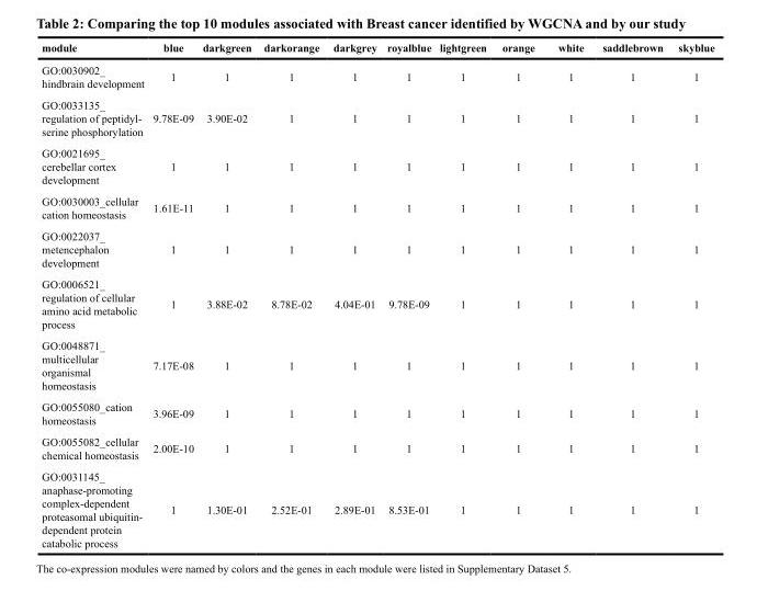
<table><thead><tr><td>module</td><td>blue</td><td>darkgreen</td><td>darkorange</td><td>darkgrey</td><td>royalblue</td><td>lightgreen</td><td>orange</td><td>white</td><td>saddlebrown</td><td>skyblue</td></tr></thead><tbody><tr><td>GO:0030902_ hindbrain development</td><td>1</td><td>1</td><td>1</td><td>1</td><td>1</td><td>1</td><td>1</td><td>1</td><td>1</td><td>1</td></tr><tr><td>GO:0033135_ regulation of peptidyl- serine phosphorylation</td><td>9.78E-09</td><td>3.90E-02</td><td>1</td><td>1</td><td>1</td><td>1</td><td>1</td><td>1</td><td>1</td><td>1</td></tr><tr><td>GO:0021695_ cerebellar cortex development</td><td>1</td><td>1</td><td>1</td><td>1</td><td>1</td><td>1</td><td>1</td><td>1</td><td>1</td><td>1</td></tr><tr><td>GO:0030003_cellular cation homeostasis</td><td>1.61E-11</td><td>1</td><td>1</td><td>1</td><td>1</td><td>1</td><td>1</td><td>1</td><td>1</td><td>1</td></tr><tr><td>GO:0022037_ metencephalon development</td><td>1</td><td>1</td><td>1</td><td>1</td><td>1</td><td>1</td><td>1</td><td>1</td><td>1</td><td>1</td></tr><tr><td>GO:0006521_ regulation of cellular amino acid metabolic process</td><td>1</td><td>3.88E-02</td><td>8.78E-02</td><td>4.04E-01</td><td>9.78E-09</td><td>1</td><td>1</td><td>1</td><td>1</td><td>1</td></tr><tr><td>GO:0048871_ multicellular organismal homeostasis</td><td>7.17E-08</td><td>1</td><td>1</td><td>1</td><td>1</td><td>1</td><td>1</td><td>1</td><td>1</td><td>1</td></tr><tr><td>GO:0055080_cation homeostasis</td><td>3.96E-09</td><td>1</td><td>1</td><td>1</td><td>1</td><td>1</td><td>1</td><td>1</td><td>1</td><td>1</td></tr><tr><td>GO:0055082_cellular chemical homeostasis</td><td>2.00E-10</td><td>1</td><td>1</td><td>1</td><td>1</td><td>1</td><td>1</td><td>1</td><td>1</td><td>1</td></tr><tr><td>GO:0031145_ anaphase-promoting complex-dependent proteasomal ubiquitin- dependent protein catabolic process</td><td>1</td><td>1.30E-01</td><td>2.52E-01</td><td>2.89E-01</td><td>8.53E-01</td><td>1</td><td>1</td><td>1</td><td>1</td><td>1</td></tr></tbody></table>